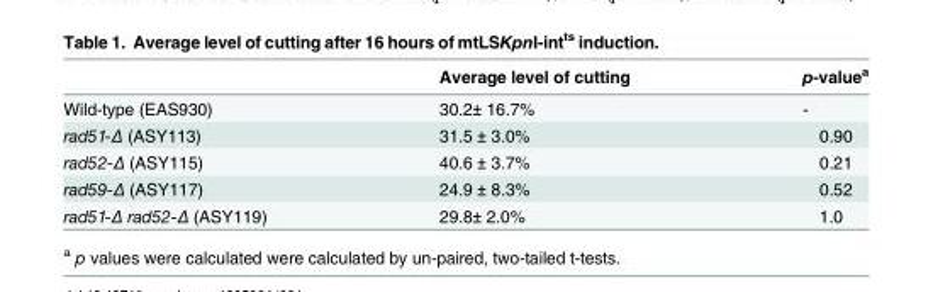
<table><thead><tr><td></td><td>Average level of cutting</td><td>p-value<sup>a</sup></td></tr></thead><tbody><tr><td>Wild-type (EAS930)</td><td>30.2± 16.7%</td><td>-</td></tr><tr><td>rad51-Δ (ASY113)</td><td>31.5 ± 3.0%</td><td>0.90</td></tr><tr><td>rad52-Δ (ASY115)</td><td>40.6 ± 3.7%</td><td>0.21</td></tr><tr><td>rad59-Δ (ASY117)</td><td>24.9 ± 8.3%</td><td>0.52</td></tr><tr><td>rad51-Δ rad52-Δ (ASY119)</td><td>29.8± 2.0%</td><td>1.0</td></tr></tbody></table>